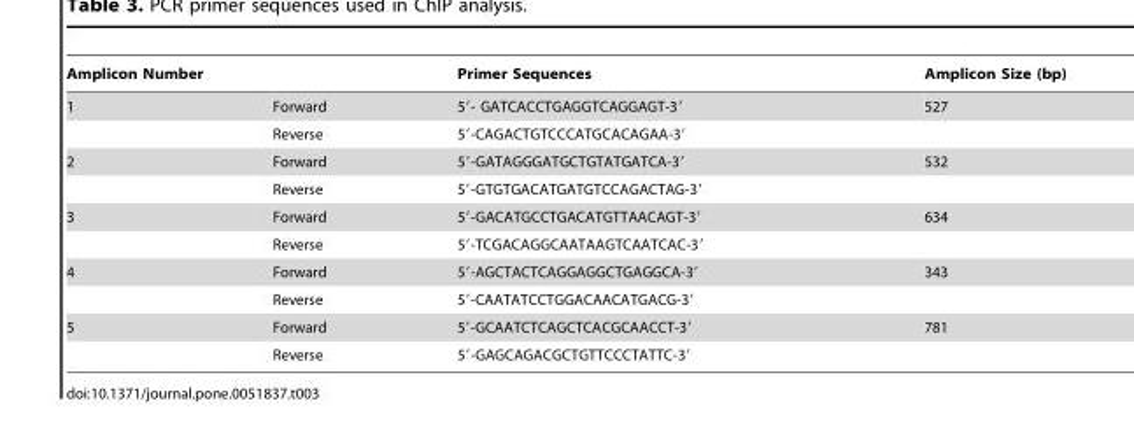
<table><thead><tr><td>Amplicon Number</td><td></td><td>Primer Sequences</td><td>Amplicon Size (bp)</td></tr></thead><tbody><tr><td rowspan="2">1</td><td>Forward</td><td>5′- GATCACCTGAGGTCAGGAGT-3′</td><td>527</td></tr><tr><td>Reverse</td><td>5′-CAGACTGTCCCATGCACAGAA-3′</td><td></td></tr><tr><td rowspan="2">2</td><td>Forward</td><td>5′-GATAGGGATGCTGTATGATCA-3′</td><td>532</td></tr><tr><td>Reverse</td><td>5′-GTGTGACATGATGTCCAGACTAG-3′</td><td></td></tr><tr><td rowspan="2">3</td><td>Forward</td><td>5′-GACATGCCTGACATGTTAACAGT-3′</td><td>634</td></tr><tr><td>Reverse</td><td>5′-TCGACAGGCAATAAGTCAATCAC-3′</td><td></td></tr><tr><td rowspan="2">4</td><td>Forward</td><td>5′-AGCTACTCAGGAGGCTGAGGCA-3′</td><td>343</td></tr><tr><td>Reverse</td><td>5′-CAATATCCTGGACAACATGACG-3′</td><td></td></tr><tr><td rowspan="2">5</td><td>Forward</td><td>5′-GCAATCTCAGCTCACGCAACCT-3′</td><td>781</td></tr><tr><td>Reverse</td><td>5′-GAGCAGACGCTGTTCCCTATTC-3′</td><td></td></tr></tbody></table>